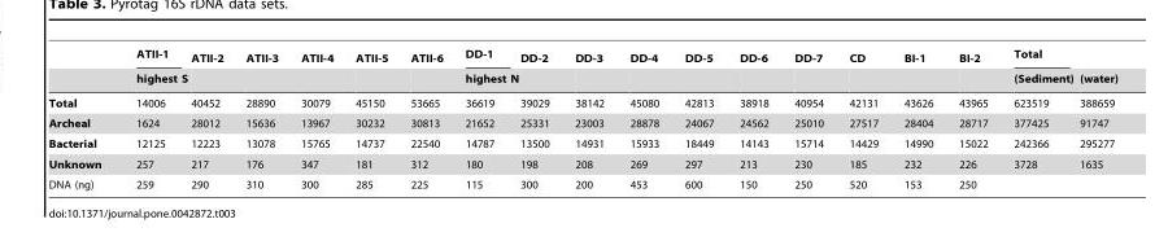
<table><thead><tr><td rowspan="2"></td><td rowspan="2">ATII-1 highest S</td><td rowspan="2">ATII-2</td><td rowspan="2">ATII-3</td><td rowspan="2">ATII-4</td><td rowspan="2">ATII-5</td><td rowspan="2">ATII-6</td><td rowspan="2">DD-1 highest N</td><td rowspan="2">DD-2</td><td rowspan="2">DD-3</td><td rowspan="2">DD-4</td><td rowspan="2">DD-5</td><td rowspan="2">DD-6</td><td rowspan="2">DD-7</td><td rowspan="2">CD</td><td rowspan="2">BI-1</td><td rowspan="2">BI-2</td><td rowspan="2">Total (Sediment)</td><td rowspan="2">(water)</td></tr><tr></tr></thead><tbody><tr><td>Total</td><td>14006</td><td>40452</td><td>28890</td><td>30079</td><td>45150</td><td>53665</td><td>36619</td><td>39029</td><td>38142</td><td>45080</td><td>42813</td><td>38918</td><td>40954</td><td>42131</td><td>43626</td><td>43965</td><td>623519</td><td>388659</td></tr><tr><td>Archeal</td><td>1624</td><td>28012</td><td>15636</td><td>13967</td><td>30232</td><td>30813</td><td>21652</td><td>25331</td><td>23003</td><td>28878</td><td>24067</td><td>24562</td><td>25010</td><td>27517</td><td>28404</td><td>28717</td><td>377425</td><td>91747</td></tr><tr><td>Bacterial</td><td>12125</td><td>12223</td><td>13078</td><td>15765</td><td>14737</td><td>22540</td><td>14787</td><td>13500</td><td>14931</td><td>15933</td><td>18449</td><td>14143</td><td>15714</td><td>14429</td><td>14990</td><td>15022</td><td>242366</td><td>295277</td></tr><tr><td>Unknown</td><td>257</td><td>217</td><td>176</td><td>347</td><td>181</td><td>312</td><td>180</td><td>198</td><td>208</td><td>269</td><td>297</td><td>213</td><td>230</td><td>185</td><td>232</td><td>226</td><td>3728</td><td>1635</td></tr><tr><td>DNA (ng)</td><td>259</td><td>290</td><td>310</td><td>300</td><td>285</td><td>225</td><td>115</td><td>300</td><td>200</td><td>453</td><td>600</td><td>150</td><td>250</td><td>520</td><td>153</td><td>250</td><td></td><td></td></tr></tbody></table>